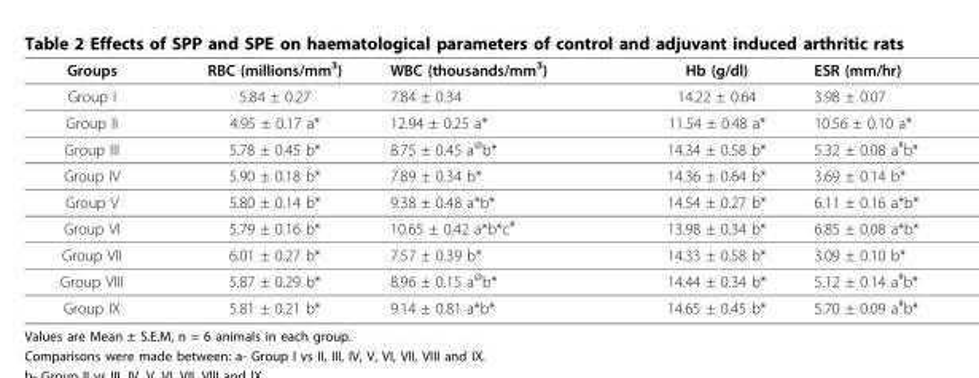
<table><thead><tr><td>Groups</td><td>RBC (millions/mm<sup>3</sup>)</td><td>WBC (thousands/mm<sup>3</sup>)</td><td>Hb (g/dl)</td><td>ESR (mm/hr)</td></tr></thead><tbody><tr><td>Group I</td><td>5.84 ± 0.27</td><td>7.84 ± 0.34</td><td>14.22 ± 0.64</td><td>3.98 ± 0.07</td></tr><tr><td>Group II</td><td>4.95 ± 0.17 a*</td><td>12.94 ± 0.25 a*</td><td>11.54 ± 0.48 a*</td><td>10.56 ± 0.10 a*</td></tr><tr><td>Group III</td><td>5.78 ± 0.45 b*</td><td>8.75 ± 0.45 a<sup>@</sup>b*</td><td>14.34 ± 0.58 b*</td><td>5.32 ± 0.08 a<sup>#</sup>b*</td></tr><tr><td>Group IV</td><td>5.90 ± 0.18 b*</td><td>7.89 ± 0.34 b*</td><td>14.36 ± 0.64 b*</td><td>3.69 ± 0.14 b*</td></tr><tr><td>Group V</td><td>5.80 ± 0.14 b*</td><td>9.38 ± 0.48 a*b*</td><td>14.54 ± 0.27 b*</td><td>6.11 ± 0.16 a*b*</td></tr><tr><td>Group VI</td><td>5.79 ± 0.16 b*</td><td>10.65 ± 0.42 a*b*c<sup>#</sup></td><td>13.98 ± 0.34 b*</td><td>6.85 ± 0.08 a*b*</td></tr><tr><td>Group VII</td><td>6.01 ± 0.27 b*</td><td>7.57 ± 0.39 b*</td><td>14.33 ± 0.58 b*</td><td>3.09 ± 0.10 b*</td></tr><tr><td>Group VIII</td><td>5.87 ± 0.29 b*</td><td>8.96 ± 0.15 a<sup>@</sup>b*</td><td>14.44 ± 0.34 b*</td><td>5.12 ± 0.14 a<sup>#</sup>b*</td></tr><tr><td>Group IX</td><td>5.81 ± 0.21 b*</td><td>9.14 ± 0.81 a*b*</td><td>14.65 ± 0.45 b*</td><td>5.70 ± 0.09 a<sup>#</sup>b*</td></tr></tbody></table>